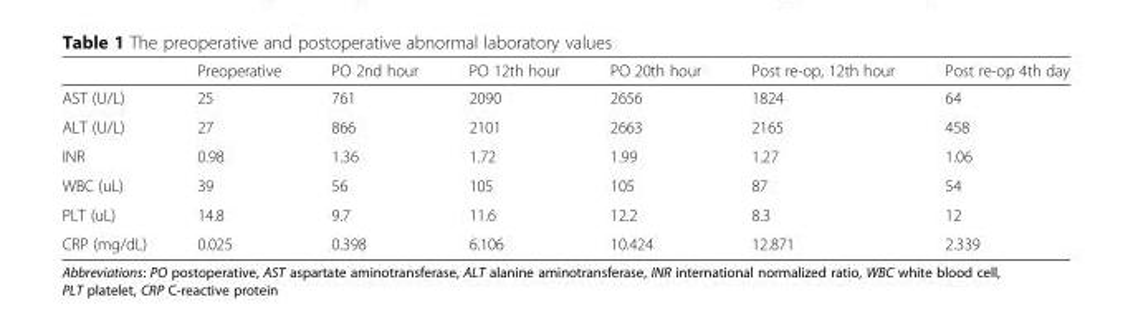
<table><thead><tr><td></td><td>Preoperative</td><td>PO 2nd hour</td><td>PO 12th hour</td><td>PO 20th hour</td><td>Post re-op, 12th hour</td><td>Post re-op 4th day</td></tr></thead><tbody><tr><td>AST (U/L)</td><td>25</td><td>761</td><td>2090</td><td>2656</td><td>1824</td><td>64</td></tr><tr><td>ALT (U/L)</td><td>27</td><td>866</td><td>2101</td><td>2663</td><td>2165</td><td>458</td></tr><tr><td>INR</td><td>0.98</td><td>1.36</td><td>1.72</td><td>1.99</td><td>1.27</td><td>1.06</td></tr><tr><td>WBC (uL)</td><td>39</td><td>56</td><td>105</td><td>105</td><td>87</td><td>54</td></tr><tr><td>PLT (uL)</td><td>14.8</td><td>9.7</td><td>11.6</td><td>12.2</td><td>8.3</td><td>12</td></tr><tr><td>CRP (mg/dL)</td><td>0.025</td><td>0.398</td><td>6.106</td><td>10.424</td><td>12.871</td><td>2.339</td></tr></tbody></table>